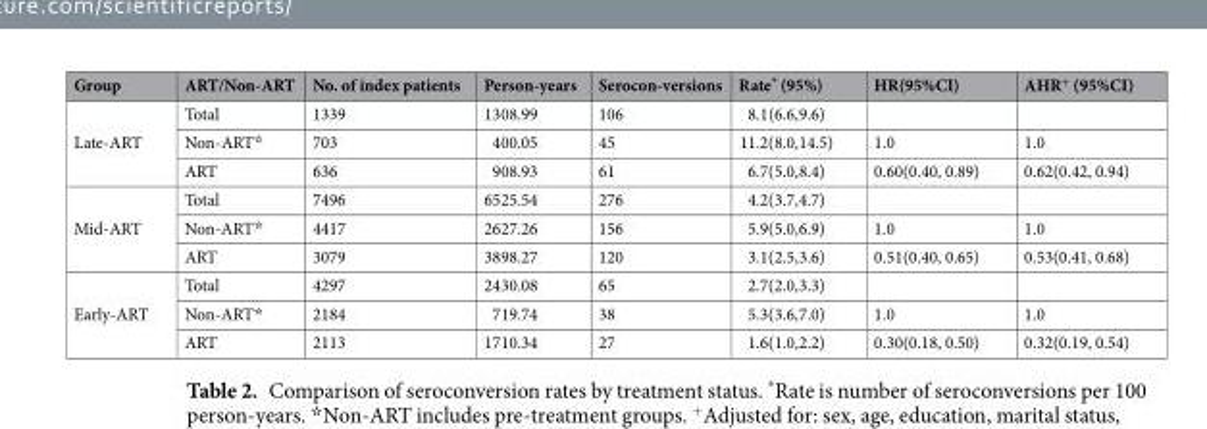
<table><thead><tr><td>Group</td><td>ART/Non-ART</td><td>No. of index patients</td><td>Person-years</td><td>Serocon-versions</td><td>Rate* (95%)</td><td>HR(95%CI)</td><td>AHR<sup>+</sup> (95%CI)</td></tr></thead><tbody><tr><td rowspan="3">Late-ART</td><td>Total</td><td>1339</td><td>1308.99</td><td>106</td><td>8.1(6.6,9.6)</td><td></td><td></td></tr><tr><td>Non-ART<sup>☆</sup></td><td>703</td><td>400.05</td><td>45</td><td>11.2(8.0,14.5)</td><td>1.0</td><td>1.0</td></tr><tr><td>ART</td><td>636</td><td>908.93</td><td>61</td><td>6.7(5.0,8.4)</td><td>0.60(0.40, 0.89)</td><td>0.62(0.42, 0.94)</td></tr><tr><td rowspan="3">Mid-ART</td><td>Total</td><td>7496</td><td>6525.54</td><td>276</td><td>4.2(3.7,4.7)</td><td></td><td></td></tr><tr><td>Non-ART<sup>☆</sup></td><td>4417</td><td>2627.26</td><td>156</td><td>5.9(5.0,6.9)</td><td>1.0</td><td>1.0</td></tr><tr><td>ART</td><td>3079</td><td>3898.27</td><td>120</td><td>3.1(2.5,3.6)</td><td>0.51(0.40, 0.65)</td><td>0.53(0.41, 0.68)</td></tr><tr><td rowspan="3">Early-ART</td><td>Total</td><td>4297</td><td>2430.08</td><td>65</td><td>2.7(2.0,3.3)</td><td></td><td></td></tr><tr><td>Non-ART<sup>☆</sup></td><td>2184</td><td>719.74</td><td>38</td><td>5.3(3.6,7.0)</td><td>1.0</td><td>1.0</td></tr><tr><td>ART</td><td>2113</td><td>1710.34</td><td>27</td><td>1.6(1.0,2.2)</td><td>0.30(0.18, 0.50)</td><td>0.32(0.19, 0.54)</td></tr></tbody></table>